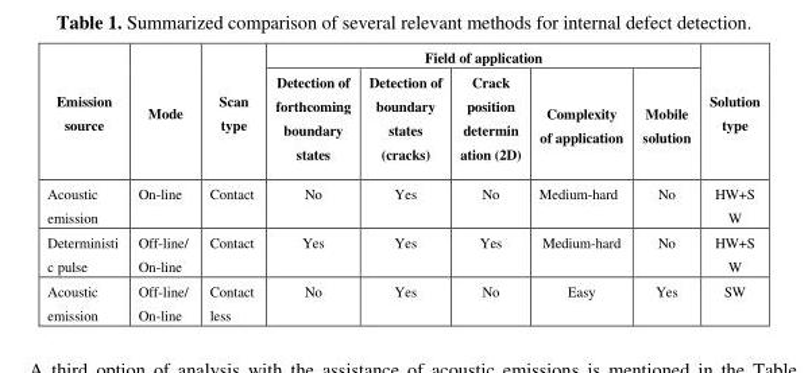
<table><thead><tr><td rowspan="2">Emission source</td><td rowspan="2">Mode</td><td rowspan="2">Scan type</td><td colspan="5">Field of application</td><td rowspan="2">Solution type</td></tr><tr><td>Detection of forthcoming boundary states</td><td>Detection of boundary states (cracks)</td><td>Crack position determin ation (2D)</td><td>Complexity of application</td><td>Mobile solution</td></tr></thead><tbody><tr><td>Acoustic emission</td><td>On-line</td><td>Contact</td><td>No</td><td>Yes</td><td>No</td><td>Medium-hard</td><td>No</td><td>HW+S W</td></tr><tr><td>Deterministi c pulse</td><td>Off-line/ On-line</td><td>Contact</td><td>Yes</td><td>Yes</td><td>Yes</td><td>Medium-hard</td><td>No</td><td>HW+S W</td></tr><tr><td>Acoustic emission</td><td>Off-line/ On-line</td><td>Contact less</td><td>No</td><td>Yes</td><td>No</td><td>Easy</td><td>Yes</td><td>SW</td></tr></tbody></table>